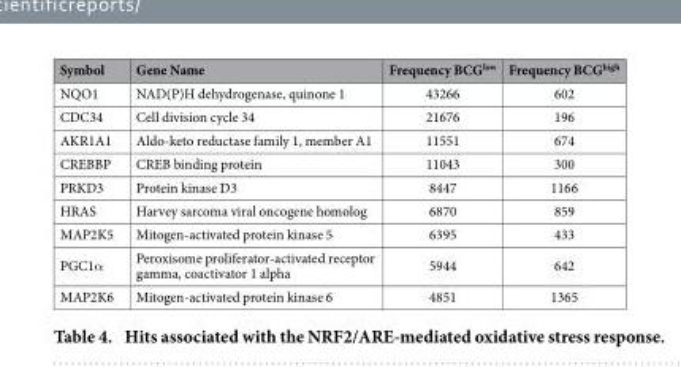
<table><thead><tr><td>Symbol</td><td>Gene Name</td><td>Frequency BCG<sup>low</sup></td><td>Frequency BCG<sup>high</sup></td></tr></thead><tbody><tr><td>NQO1</td><td>NAD(P)H dehydrogenase, quinone 1</td><td>43266</td><td>602</td></tr><tr><td>CDC34</td><td>Cell division cycle 34</td><td>21676</td><td>196</td></tr><tr><td>AKR1A1</td><td>Aldo-keto reductase family 1, member A1</td><td>11551</td><td>674</td></tr><tr><td>CREBBP</td><td>CREB binding protein</td><td>11043</td><td>300</td></tr><tr><td>PRKD3</td><td>Protein kinase D3</td><td>8447</td><td>1166</td></tr><tr><td>HRAS</td><td>Harvey sarcoma viral oncogene homolog</td><td>6870</td><td>859</td></tr><tr><td>MAP2K5</td><td>Mitogen-activated protein kinase 5</td><td>6395</td><td>433</td></tr><tr><td>PGC1α</td><td>Peroxisome proliferator-activated receptor gamma, coactivator 1 alpha</td><td>5944</td><td>642</td></tr><tr><td>MAP2K6</td><td>Mitogen-activated protein kinase 6</td><td>4851</td><td>1365</td></tr></tbody></table>